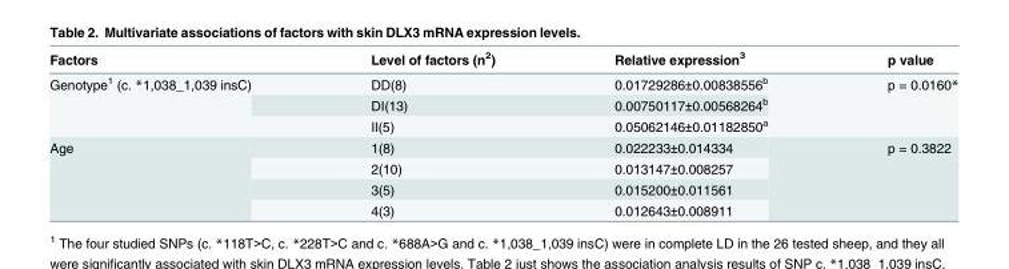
<table><thead><tr><td>Factors</td><td>Level of factors (n<sup>2</sup>)</td><td>Relative expression<sup>3</sup></td><td>p value</td></tr></thead><tbody><tr><td rowspan="3">Genotype<sup>1</sup> (c. *1,038_1,039 insC)</td><td>DD(8)</td><td>0.01729286±0.00838556<sup>b</sup></td><td rowspan="3">p = 0.0160*</td></tr><tr><td>DI(13)</td><td>0.00750117±0.00568264<sup>b</sup></td></tr><tr><td>II(5)</td><td>0.05062146±0.01182850<sup>a</sup></td></tr><tr><td rowspan="4">Age</td><td>1(8)</td><td>0.022233±0.014334</td><td rowspan="4">p = 0.3822</td></tr><tr><td>2(10)</td><td>0.013147±0.008257</td></tr><tr><td>3(5)</td><td>0.015200±0.011561</td></tr><tr><td>4(3)</td><td>0.012643±0.008911</td></tr></tbody></table>